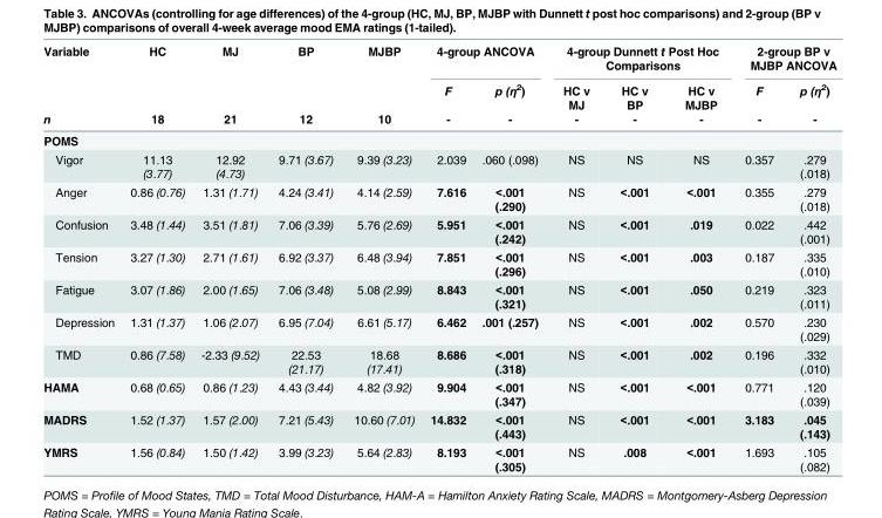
<table><thead><tr><td rowspan="3">Variable n</td><td rowspan="3">HC 18</td><td rowspan="3">MJ 21</td><td rowspan="3">BP 12</td><td rowspan="3">MJBP 10</td><td colspan="2">4-group ANCOVA</td><td colspan="3">4-group Dunnett t Post Hoc Comparisons</td><td colspan="2">2-group BP v MJBP ANCOVA</td></tr><tr><td rowspan="2">F -</td><td rowspan="2">p (η<sup>2</sup>) -</td><td rowspan="2">HC v MJ -</td><td rowspan="2">HC v BP -</td><td rowspan="2">HC v MJBP -</td><td rowspan="2">F -</td><td rowspan="2">p (η<sup>2</sup>) -</td></tr><tr></tr></thead><tbody><tr><td colspan="12">POMS</td></tr><tr><td>Vigor</td><td>11.13 (3.77)</td><td>12.92 (4.73)</td><td>9.71 (3.67)</td><td>9.39 (3.23)</td><td>2.039</td><td>.060 (.098)</td><td>NS</td><td>NS</td><td>NS</td><td>0.357</td><td>.279 (.018)</td></tr><tr><td>Anger</td><td>0.86 (0.76)</td><td>1.31 (1.71)</td><td>4.24 (3.41)</td><td>4.14 (2.59)</td><td>7.616</td><td>&lt;.001 (.290)</td><td>NS</td><td>&lt;.001</td><td>&lt;.001</td><td>0.355</td><td>.279 (.018)</td></tr><tr><td>Confusion</td><td>3.48 (1.44)</td><td>3.51 (1.81)</td><td>7.06 (3.39)</td><td>5.76 (2.69)</td><td>5.951</td><td>&lt;.001 (.242)</td><td>NS</td><td>&lt;.001</td><td>.019</td><td>0.022</td><td>.442 (.001)</td></tr><tr><td>Tension</td><td>3.27 (1.30)</td><td>2.71 (1.61)</td><td>6.92 (3.37)</td><td>6.48 (3.94)</td><td>7.851</td><td>&lt;.001 (.296)</td><td>NS</td><td>&lt;.001</td><td>.003</td><td>0.187</td><td>.335 (.010)</td></tr><tr><td>Fatigue</td><td>3.07 (1.86)</td><td>2.00 (1.65)</td><td>7.06 (3.48)</td><td>5.08 (2.99)</td><td>8.843</td><td>&lt;.001 (.321)</td><td>NS</td><td>&lt;.001</td><td>.050</td><td>0.219</td><td>.323 (.011)</td></tr><tr><td>Depression</td><td>1.31 (1.37)</td><td>1.06 (2.07)</td><td>6.95 (7.04)</td><td>6.61 (5.17)</td><td>6.462</td><td>.001 (.257)</td><td>NS</td><td>&lt;.001</td><td>.002</td><td>0.570</td><td>.230 (.029)</td></tr><tr><td>TMD</td><td>0.86 (7.58)</td><td>-2.33 (9.52)</td><td>22.53 (21.17)</td><td>18.68 (17.41)</td><td>8.686</td><td>&lt;.001 (.318)</td><td>NS</td><td>&lt;.001</td><td>.002</td><td>0.196</td><td>.332 (.010)</td></tr><tr><td>HAMA</td><td>0.68 (0.65)</td><td>0.86 (1.23)</td><td>4.43 (3.44)</td><td>4.82 (3.92)</td><td>9.904</td><td>&lt;.001 (.347)</td><td>NS</td><td>&lt;.001</td><td>&lt;.001</td><td>0.771</td><td>.120 (.039)</td></tr><tr><td>MADRS</td><td>1.52 (1.37)</td><td>1.57 (2.00)</td><td>7.21 (5.43)</td><td>10.60 (7.01)</td><td>14.832</td><td>&lt;.001 (.443)</td><td>NS</td><td>&lt;.001</td><td>&lt;.001</td><td>3.183</td><td>.045 (.143)</td></tr><tr><td>YMRS</td><td>1.56 (0.84)</td><td>1.50 (1.42)</td><td>3.99 (3.23)</td><td>5.64 (2.83)</td><td>8.193</td><td>&lt;.001 (.305)</td><td>NS</td><td>.008</td><td>&lt;.001</td><td>1.693</td><td>.105 (.082)</td></tr></tbody></table>